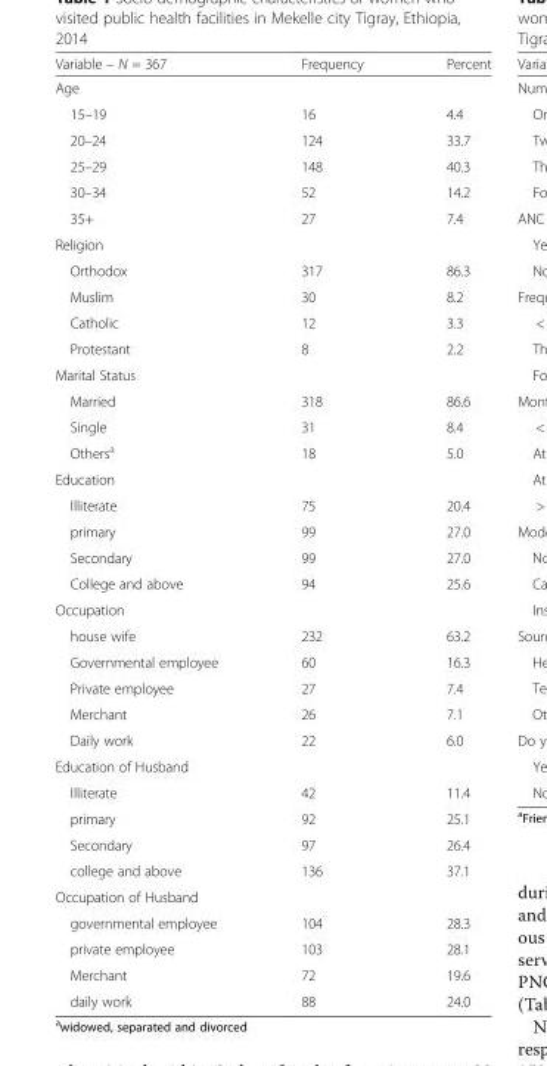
<table><thead><tr><td>Variable – N = 367</td><td>Frequency</td><td>Percent</td></tr></thead><tbody><tr><td colspan="3">Age</td></tr><tr><td>15–19</td><td>16</td><td>4.4</td></tr><tr><td>20–24</td><td>124</td><td>33.7</td></tr><tr><td>25–29</td><td>148</td><td>40.3</td></tr><tr><td>30–34</td><td>52</td><td>14.2</td></tr><tr><td>35+</td><td>27</td><td>7.4</td></tr><tr><td colspan="3">Religion</td></tr><tr><td>Orthodox</td><td>317</td><td>86.3</td></tr><tr><td>Muslim</td><td>30</td><td>8.2</td></tr><tr><td>Catholic</td><td>12</td><td>3.3</td></tr><tr><td>Protestant</td><td>8</td><td>2.2</td></tr><tr><td colspan="3">Marital Status</td></tr><tr><td>Married</td><td>318</td><td>86.6</td></tr><tr><td>Single</td><td>31</td><td>8.4</td></tr><tr><td>Others<sup>a</sup></td><td>18</td><td>5.0</td></tr><tr><td colspan="3">Education</td></tr><tr><td>Illiterate</td><td>75</td><td>20.4</td></tr><tr><td>primary</td><td>99</td><td>27.0</td></tr><tr><td>Secondary</td><td>99</td><td>27.0</td></tr><tr><td>College and above</td><td>94</td><td>25.6</td></tr><tr><td colspan="3">Occupation</td></tr><tr><td>house wife</td><td>232</td><td>63.2</td></tr><tr><td>Governmental employee</td><td>60</td><td>16.3</td></tr><tr><td>Private employee</td><td>27</td><td>7.4</td></tr><tr><td>Merchant</td><td>26</td><td>7.1</td></tr><tr><td>Daily work</td><td>22</td><td>6.0</td></tr><tr><td colspan="3">Education of Husband</td></tr><tr><td>Illiterate</td><td>42</td><td>11.4</td></tr><tr><td>primary</td><td>92</td><td>25.1</td></tr><tr><td>Secondary</td><td>97</td><td>26.4</td></tr><tr><td>college and above</td><td>136</td><td>37.1</td></tr><tr><td colspan="3">Occupation of Husband</td></tr><tr><td>governmental employee</td><td>104</td><td>28.3</td></tr><tr><td>private employee</td><td>103</td><td>28.1</td></tr><tr><td>Merchant</td><td>72</td><td>19.6</td></tr><tr><td>daily work</td><td>88</td><td>24.0</td></tr></tbody></table>